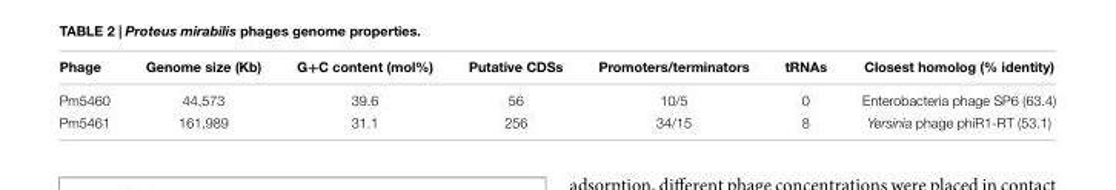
<table><thead><tr><td>Phage</td><td>Genome size (Kb)</td><td>G+C content (mol%)</td><td>Putative CDSs</td><td>Promoters/terminators</td><td>tRNAs</td><td>Closest homolog (% identity)</td></tr></thead><tbody><tr><td>Pm5460</td><td>44,573</td><td>39.6</td><td>56</td><td>10/5</td><td>0</td><td>Enterobacteria phage SP6 (63.4)</td></tr><tr><td>Pm5461</td><td>161,989</td><td>31.1</td><td>256</td><td>34/15</td><td>8</td><td>Yersinia phage phiR1-RT (53.1)</td></tr></tbody></table>